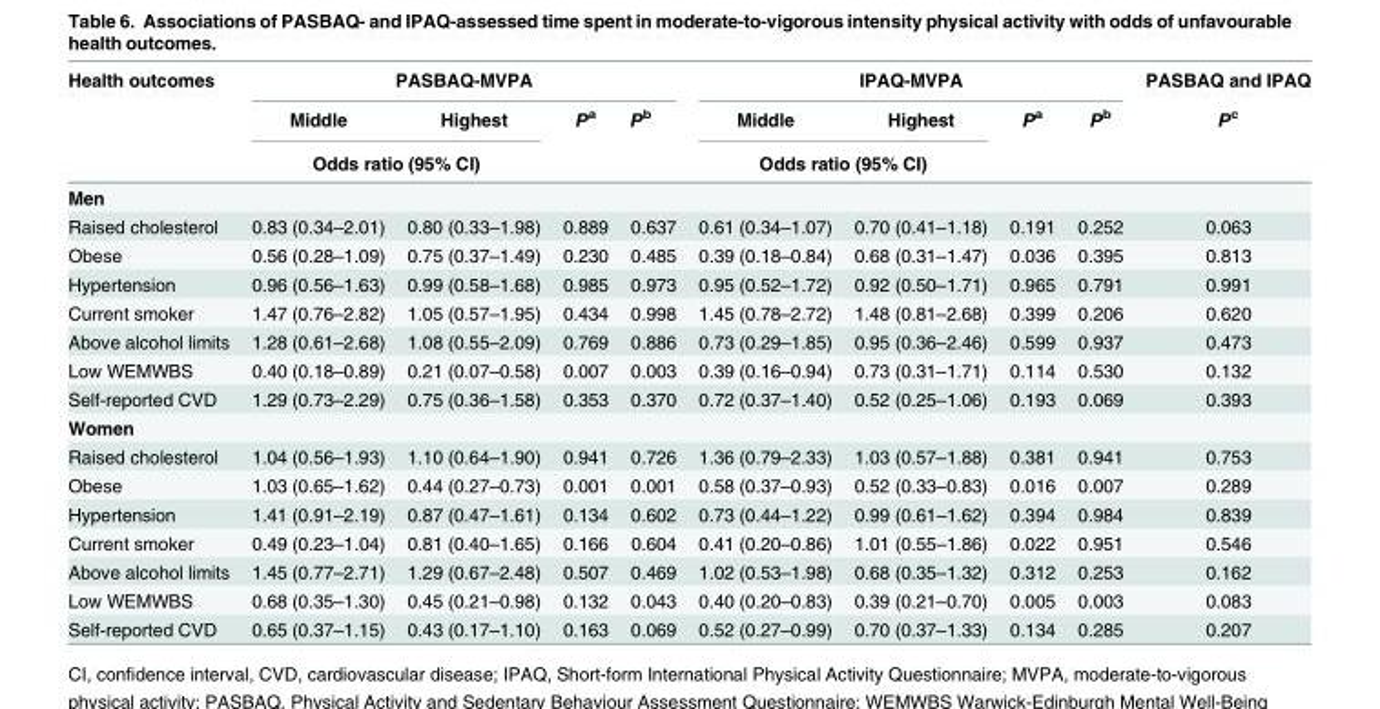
<table><thead><tr><td rowspan="3">Health outcomes</td><td colspan="4">PASBAQ-MVPA</td><td colspan="4">IPAQ-MVPA</td><td rowspan="3">PASBAQ and IPAQ P<sup>c</sup></td></tr><tr><td>Middle</td><td>Highest</td><td rowspan="2">P<sup>a</sup></td><td rowspan="2">P<sup>b</sup></td><td>Middle</td><td>Highest</td><td rowspan="2">P<sup>a</sup></td><td rowspan="2">P<sup>b</sup></td></tr><tr><td colspan="2">Odds ratio (95% CI)</td><td colspan="2">Odds ratio (95% CI)</td></tr></thead><tbody><tr><td colspan="10">Men</td></tr><tr><td>Raised cholesterol</td><td>0.83 (0.34–2.01)</td><td>0.80 (0.33–1.98)</td><td>0.889</td><td>0.637</td><td>0.61 (0.34–1.07)</td><td>0.70 (0.41–1.18)</td><td>0.191</td><td>0.252</td><td>0.063</td></tr><tr><td>Obese</td><td>0.56 (0.28–1.09)</td><td>0.75 (0.37–1.49)</td><td>0.230</td><td>0.485</td><td>0.39 (0.18–0.84)</td><td>0.68 (0.31–1.47)</td><td>0.036</td><td>0.395</td><td>0.813</td></tr><tr><td>Hypertension</td><td>0.96 (0.56–1.63)</td><td>0.99 (0.58–1.68)</td><td>0.985</td><td>0.973</td><td>0.95 (0.52–1.72)</td><td>0.92 (0.50–1.71)</td><td>0.965</td><td>0.791</td><td>0.991</td></tr><tr><td>Current smoker</td><td>1.47 (0.76–2.82)</td><td>1.05 (0.57–1.95)</td><td>0.434</td><td>0.998</td><td>1.45 (0.78–2.72)</td><td>1.48 (0.81–2.68)</td><td>0.399</td><td>0.206</td><td>0.620</td></tr><tr><td>Above alcohol limits</td><td>1.28 (0.61–2.68)</td><td>1.08 (0.55–2.09)</td><td>0.769</td><td>0.886</td><td>0.73 (0.29–1.85)</td><td>0.95 (0.36–2.46)</td><td>0.599</td><td>0.937</td><td>0.473</td></tr><tr><td>Low WEMWBS</td><td>0.40 (0.18–0.89)</td><td>0.21 (0.07–0.58)</td><td>0.007</td><td>0.003</td><td>0.39 (0.16–0.94)</td><td>0.73 (0.31–1.71)</td><td>0.114</td><td>0.530</td><td>0.132</td></tr><tr><td>Self-reported CVD</td><td>1.29 (0.73–2.29)</td><td>0.75 (0.36–1.58)</td><td>0.353</td><td>0.370</td><td>0.72 (0.37–1.40)</td><td>0.52 (0.25–1.06)</td><td>0.193</td><td>0.069</td><td>0.393</td></tr><tr><td colspan="10">Women</td></tr><tr><td>Raised cholesterol</td><td>1.04 (0.56–1.93)</td><td>1.10 (0.64–1.90)</td><td>0.941</td><td>0.726</td><td>1.36 (0.79–2.33)</td><td>1.03 (0.57–1.88)</td><td>0.381</td><td>0.941</td><td>0.753</td></tr><tr><td>Obese</td><td>1.03 (0.65–1.62)</td><td>0.44 (0.27–0.73)</td><td>0.001</td><td>0.001</td><td>0.58 (0.37–0.93)</td><td>0.52 (0.33–0.83)</td><td>0.016</td><td>0.007</td><td>0.289</td></tr><tr><td>Hypertension</td><td>1.41 (0.91–2.19)</td><td>0.87 (0.47–1.61)</td><td>0.134</td><td>0.602</td><td>0.73 (0.44–1.22)</td><td>0.99 (0.61–1.62)</td><td>0.394</td><td>0.984</td><td>0.839</td></tr><tr><td>Current smoker</td><td>0.49 (0.23–1.04)</td><td>0.81 (0.40–1.65)</td><td>0.166</td><td>0.604</td><td>0.41 (0.20–0.86)</td><td>1.01 (0.55–1.86)</td><td>0.022</td><td>0.951</td><td>0.546</td></tr><tr><td>Above alcohol limits</td><td>1.45 (0.77–2.71)</td><td>1.29 (0.67–2.48)</td><td>0.507</td><td>0.469</td><td>1.02 (0.53–1.98)</td><td>0.68 (0.35–1.32)</td><td>0.312</td><td>0.253</td><td>0.162</td></tr><tr><td>Low WEMWBS</td><td>0.68 (0.35–1.30)</td><td>0.45 (0.21–0.98)</td><td>0.132</td><td>0.043</td><td>0.40 (0.20–0.83)</td><td>0.39 (0.21–0.70)</td><td>0.005</td><td>0.003</td><td>0.083</td></tr><tr><td>Self-reported CVD</td><td>0.65 (0.37–1.15)</td><td>0.43 (0.17–1.10)</td><td>0.163</td><td>0.069</td><td>0.52 (0.27–0.99)</td><td>0.70 (0.37–1.33)</td><td>0.134</td><td>0.285</td><td>0.207</td></tr></tbody></table>